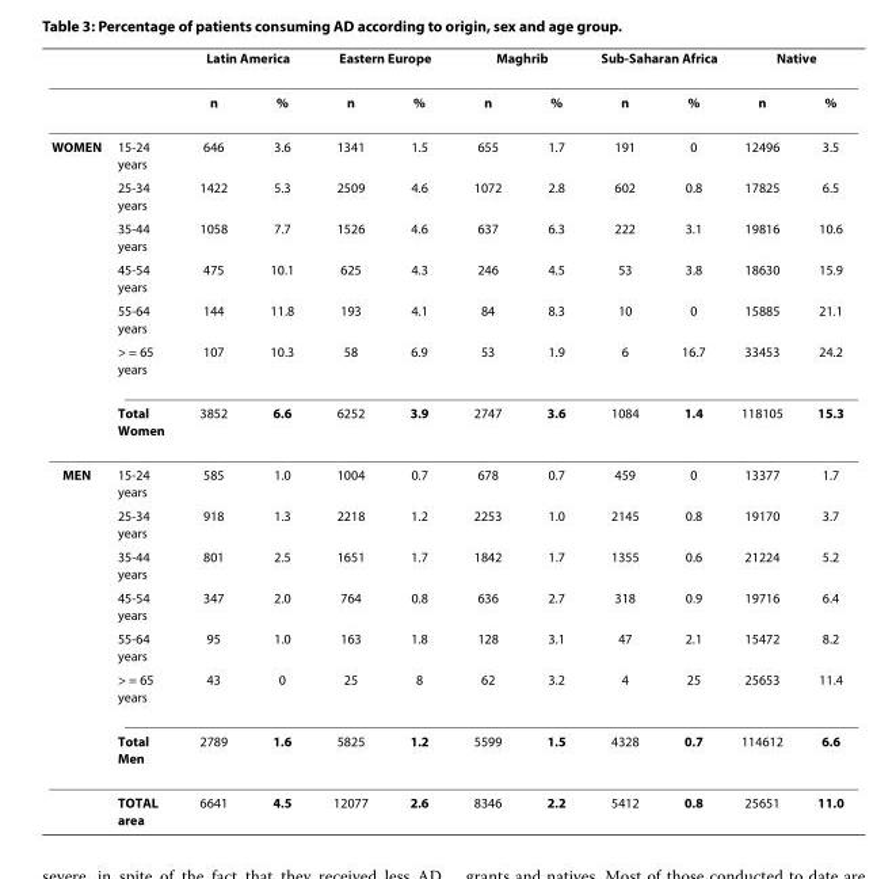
<table><thead><tr><td rowspan="2"></td><td rowspan="2"></td><td colspan="2">Latin America</td><td colspan="2">Eastern Europe</td><td colspan="2">Maghrib</td><td colspan="2">Sub-Saharan Africa</td><td colspan="2">Native</td></tr><tr><td>n</td><td>%</td><td>n</td><td>%</td><td>n</td><td>%</td><td>n</td><td>%</td><td>n</td><td>%</td></tr></thead><tbody><tr><td rowspan="7">WOMEN</td><td>15-24 years</td><td>646</td><td>3.6</td><td>1341</td><td>1.5</td><td>655</td><td>1.7</td><td>191</td><td>0</td><td>12496</td><td>3.5</td></tr><tr><td>25-34 years</td><td>1422</td><td>5.3</td><td>2509</td><td>4.6</td><td>1072</td><td>2.8</td><td>602</td><td>0.8</td><td>17825</td><td>6.5</td></tr><tr><td>35-44 years</td><td>1058</td><td>7.7</td><td>1526</td><td>4.6</td><td>637</td><td>6.3</td><td>222</td><td>3.1</td><td>19816</td><td>10.6</td></tr><tr><td>45-54 years</td><td>475</td><td>10.1</td><td>625</td><td>4.3</td><td>246</td><td>4.5</td><td>53</td><td>3.8</td><td>18630</td><td>15.9</td></tr><tr><td>55-64 years</td><td>144</td><td>11.8</td><td>193</td><td>4.1</td><td>84</td><td>8.3</td><td>10</td><td>0</td><td>15885</td><td>21.1</td></tr><tr><td>&gt; = 65 years</td><td>107</td><td>10.3</td><td>58</td><td>6.9</td><td>53</td><td>1.9</td><td>6</td><td>16.7</td><td>33453</td><td>24.2</td></tr><tr><td>Total Women</td><td>3852</td><td>6.6</td><td>6252</td><td>3.9</td><td>2747</td><td>3.6</td><td>1084</td><td>1.4</td><td>118105</td><td>15.3</td></tr><tr><td rowspan="8">MEN</td><td>15-24 years</td><td>585</td><td>1.0</td><td>1004</td><td>0.7</td><td>678</td><td>0.7</td><td>459</td><td>0</td><td>13377</td><td>1.7</td></tr><tr><td>25-34 years</td><td>918</td><td>1.3</td><td>2218</td><td>1.2</td><td>2253</td><td>1.0</td><td>2145</td><td>0.8</td><td>19170</td><td>3.7</td></tr><tr><td>35-44 years</td><td>801</td><td>2.5</td><td>1651</td><td>1.7</td><td>1842</td><td>1.7</td><td>1355</td><td>0.6</td><td>21224</td><td>5.2</td></tr><tr><td>45-54 years</td><td>347</td><td>2.0</td><td>764</td><td>0.8</td><td>636</td><td>2.7</td><td>318</td><td>0.9</td><td>19716</td><td>6.4</td></tr><tr><td>55-64 years</td><td>95</td><td>1.0</td><td>163</td><td>1.8</td><td>128</td><td>3.1</td><td>47</td><td>2.1</td><td>15472</td><td>8.2</td></tr><tr><td>&gt; = 65 years</td><td>43</td><td>0</td><td>25</td><td>8</td><td>62</td><td>3.2</td><td>4</td><td>25</td><td>25653</td><td>11.4</td></tr><tr><td>Total Men</td><td>2789</td><td>1.6</td><td>5825</td><td>1.2</td><td>5599</td><td>1.5</td><td>4328</td><td>0.7</td><td>114612</td><td>6.6</td></tr><tr><td>TOTAL area</td><td>6641</td><td>4.5</td><td>12077</td><td>2.6</td><td>8346</td><td>2.2</td><td>5412</td><td>0.8</td><td>25651</td><td>11.0</td></tr></tbody></table>